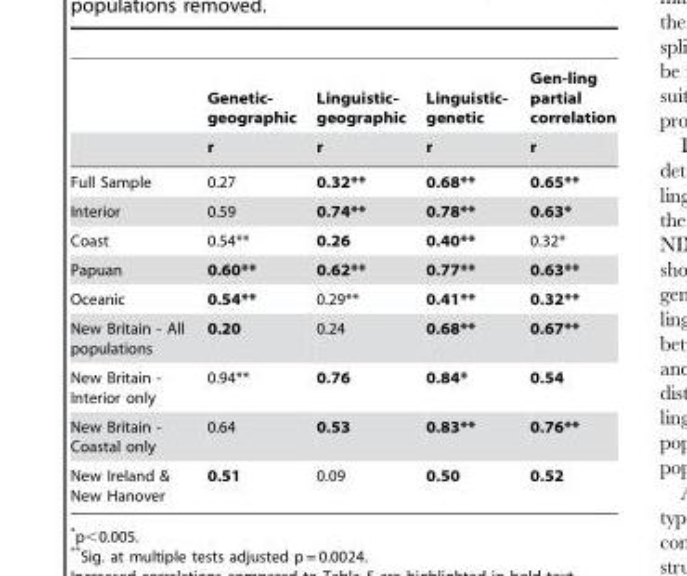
<table><thead><tr><td rowspan="2"></td><td rowspan="2">Genetic- geographic r</td><td rowspan="2">Linguistic- geographic r</td><td rowspan="2">Linguistic- genetic r</td><td rowspan="2">Gen-ling partial correlation r</td></tr><tr></tr></thead><tbody><tr><td>Full Sample</td><td>0.27</td><td>0.32**</td><td>0.68**</td><td>0.65**</td></tr><tr><td>Interior</td><td>0.59</td><td>0.74**</td><td>0.78**</td><td>0.63*</td></tr><tr><td>Coast</td><td>0.54**</td><td>0.26</td><td>0.40**</td><td>0.32*</td></tr><tr><td>Papuan</td><td>0.60**</td><td>0.62**</td><td>0.77**</td><td>0.63**</td></tr><tr><td>Oceanic</td><td>0.54**</td><td>0.29**</td><td>0.41**</td><td>0.32**</td></tr><tr><td>New Britain - All populations</td><td>0.20</td><td>0.24</td><td>0.68**</td><td>0.67**</td></tr><tr><td>New Britain - Interior only</td><td>0.94**</td><td>0.76</td><td>0.84*</td><td>0.54</td></tr><tr><td>New Britain - Coastal only</td><td>0.64</td><td>0.53</td><td>0.83**</td><td>0.76**</td></tr><tr><td>New Ireland &amp; New Hanover</td><td>0.51</td><td>0.09</td><td>0.50</td><td>0.52</td></tr></tbody></table>